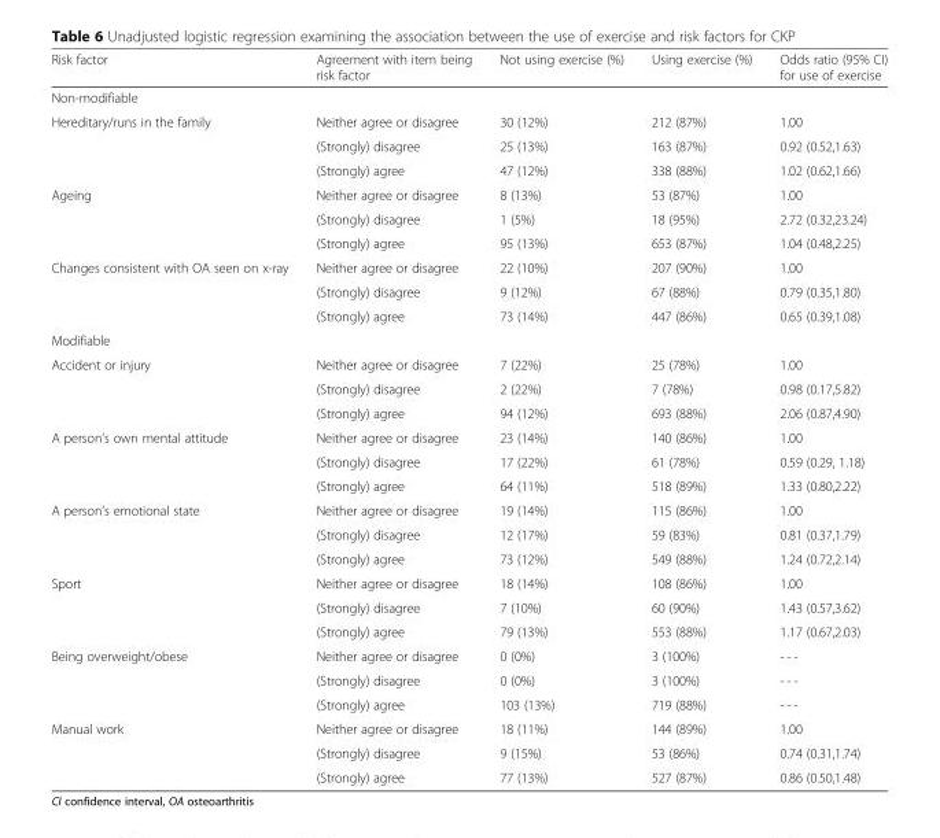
<table><thead><tr><td>Risk factor</td><td>Agreement with item being risk factor</td><td>Not using exercise (%)</td><td>Using exercise (%)</td><td>Odds ratio (95% CI) for use of exercise</td></tr></thead><tbody><tr><td colspan="5">Non-modifiable</td></tr><tr><td rowspan="3">Hereditary/runs in the family</td><td>Neither agree or disagree</td><td>30 (12%)</td><td>212 (87%)</td><td>1.00</td></tr><tr><td>(Strongly) disagree</td><td>25 (13%)</td><td>163 (87%)</td><td>0.92 (0.52,1.63)</td></tr><tr><td>(Strongly) agree</td><td>47 (12%)</td><td>338 (88%)</td><td>1.02 (0.62,1.66)</td></tr><tr><td rowspan="3">Ageing</td><td>Neither agree or disagree</td><td>8 (13%)</td><td>53 (87%)</td><td>1.00</td></tr><tr><td>(Strongly) disagree</td><td>1 (5%)</td><td>18 (95%)</td><td>2.72 (0.32,23.24)</td></tr><tr><td>(Strongly) agree</td><td>95 (13%)</td><td>653 (87%)</td><td>1.04 (0.48,2.25)</td></tr><tr><td rowspan="3">Changes consistent with OA seen on x-ray</td><td>Neither agree or disagree</td><td>22 (10%)</td><td>207 (90%)</td><td>1.00</td></tr><tr><td>(Strongly) disagree</td><td>9 (12%)</td><td>67 (88%)</td><td>0.79 (0.35,1.80)</td></tr><tr><td>(Strongly) agree</td><td>73 (14%)</td><td>447 (86%)</td><td>0.65 (0.39,1.08)</td></tr><tr><td colspan="5">Modifiable</td></tr><tr><td rowspan="3">Accident or injury</td><td>Neither agree or disagree</td><td>7 (22%)</td><td>25 (78%)</td><td>1.00</td></tr><tr><td>(Strongly) disagree</td><td>2 (22%)</td><td>7 (78%)</td><td>0.98 (0.17,5.82)</td></tr><tr><td>(Strongly) agree</td><td>94 (12%)</td><td>693 (88%)</td><td>2.06 (0.87,4.90)</td></tr><tr><td rowspan="3">A person’s own mental attitude</td><td>Neither agree or disagree</td><td>23 (14%)</td><td>140 (86%)</td><td>1.00</td></tr><tr><td>(Strongly) disagree</td><td>17 (22%)</td><td>61 (78%)</td><td>0.59 (0.29, 1.18)</td></tr><tr><td>(Strongly) agree</td><td>64 (11%)</td><td>518 (89%)</td><td>1.33 (0.80,2.22)</td></tr><tr><td rowspan="3">A person’s emotional state</td><td>Neither agree or disagree</td><td>19 (14%)</td><td>115 (86%)</td><td>1.00</td></tr><tr><td>(Strongly) disagree</td><td>12 (17%)</td><td>59 (83%)</td><td>0.81 (0.37,1.79)</td></tr><tr><td>(Strongly) agree</td><td>73 (12%)</td><td>549 (88%)</td><td>1.24 (0.72,2.14)</td></tr><tr><td rowspan="3">Sport</td><td>Neither agree or disagree</td><td>18 (14%)</td><td>108 (86%)</td><td>1.00</td></tr><tr><td>(Strongly) disagree</td><td>7 (10%)</td><td>60 (90%)</td><td>1.43 (0.57,3.62)</td></tr><tr><td>(Strongly) agree</td><td>79 (13%)</td><td>553 (88%)</td><td>1.17 (0.67,2.03)</td></tr><tr><td rowspan="3">Being overweight/obese</td><td>Neither agree or disagree</td><td>0 (0%)</td><td>3 (100%)</td><td>- - -</td></tr><tr><td>(Strongly) disagree</td><td>0 (0%)</td><td>3 (100%)</td><td>- - -</td></tr><tr><td>(Strongly) agree</td><td>103 (13%)</td><td>719 (88%)</td><td>- - -</td></tr><tr><td rowspan="3">Manual work</td><td>Neither agree or disagree</td><td>18 (11%)</td><td>144 (89%)</td><td>1.00</td></tr><tr><td>(Strongly) disagree</td><td>9 (15%)</td><td>53 (86%)</td><td>0.74 (0.31,1.74)</td></tr><tr><td>(Strongly) agree</td><td>77 (13%)</td><td>527 (87%)</td><td>0.86 (0.50,1.48)</td></tr></tbody></table>